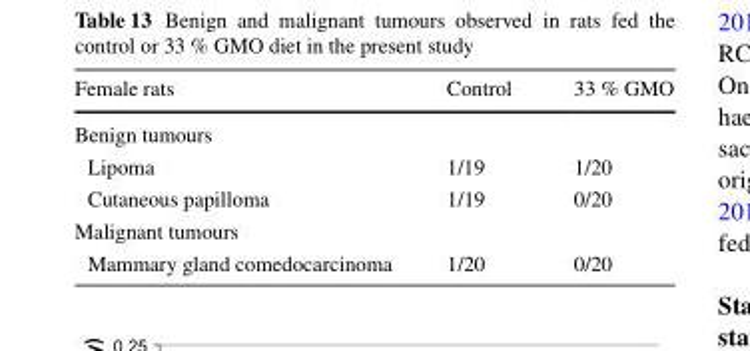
<table><thead><tr><td>Female rats</td><td>Control</td><td>33 % GMO</td></tr></thead><tbody><tr><td colspan="3">Benign tumours</td></tr><tr><td>Lipoma</td><td>1/19</td><td>1/20</td></tr><tr><td>Cutaneous papilloma</td><td>1/19</td><td>0/20</td></tr><tr><td colspan="3">Malignant tumours</td></tr><tr><td>Mammary gland comedocarcinoma</td><td>1/20</td><td>0/20</td></tr></tbody></table>